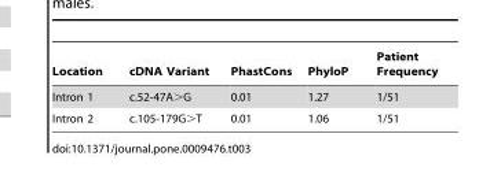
<table><thead><tr><td>Location</td><td>cDNA Variant</td><td>PhastCons</td><td>PhyloP</td><td>Patient Frequency</td></tr></thead><tbody><tr><td>Intron 1</td><td>c.52-47A&gt;G</td><td>0.01</td><td>1.27</td><td>1/51</td></tr><tr><td>Intron 2</td><td>c.105-179G&gt;T</td><td>0.01</td><td>1.06</td><td>1/51</td></tr></tbody></table>